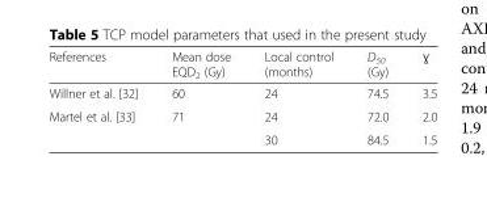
<table><thead><tr><td>References</td><td>Mean dose EQD<sub>2</sub> (Gy)</td><td>Local control (months)</td><td>D<sub>50</sub> (Gy)</td><td>ɣ</td></tr></thead><tbody><tr><td>Willner et al. [32]</td><td>60</td><td>24</td><td>74.5</td><td>3.5</td></tr><tr><td rowspan="2">Martel et al. [33]</td><td>71</td><td>24</td><td>72.0</td><td>2.0</td></tr><tr><td></td><td>30</td><td>84.5</td><td>1.5</td></tr></tbody></table>